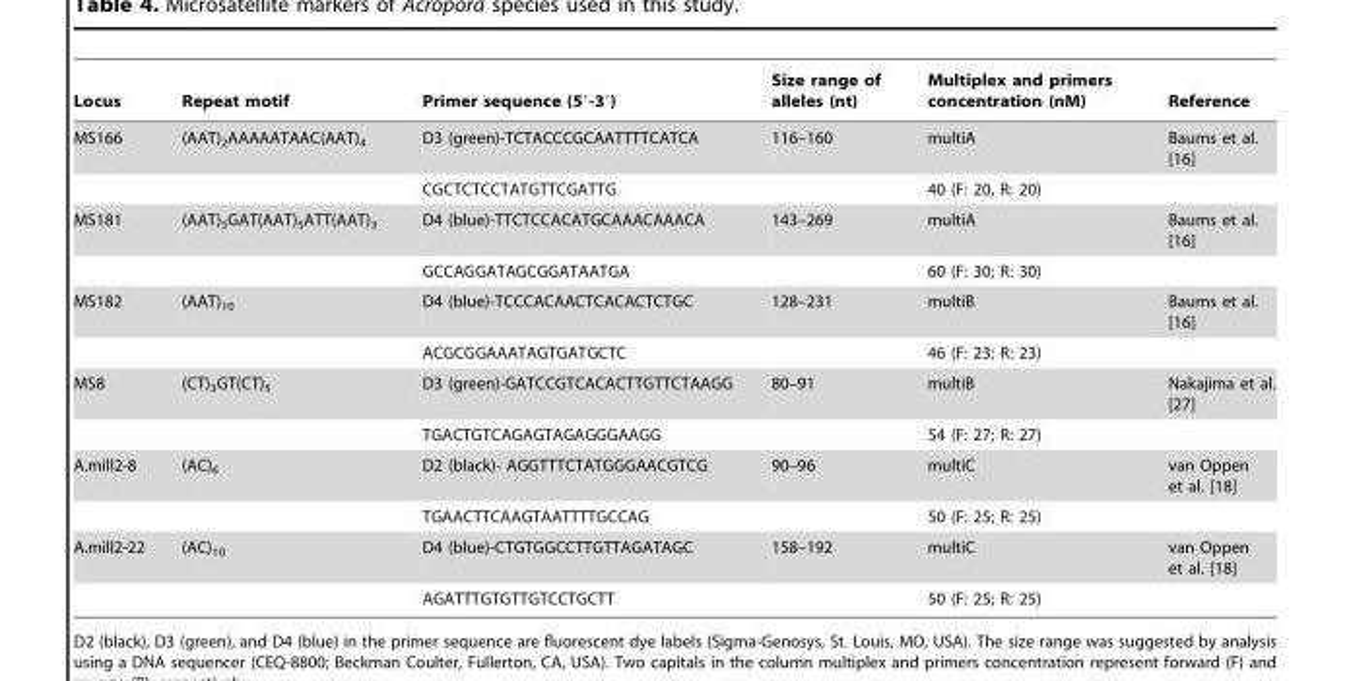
<table><thead><tr><td>Locus</td><td>Repeat motif</td><td>Primer sequence (5′-3′)</td><td>Size range of alleles (nt)</td><td>Multiplex and primers concentration (nM)</td><td>Reference</td></tr></thead><tbody><tr><td rowspan="2">MS166</td><td>(AAT)<sub>2</sub>AAAAATAAC(AAT)<sub>4</sub></td><td>D3 (green)-TCTACCCGCAATTTTCATCA</td><td>116–160</td><td>multiA</td><td>Baums et al. [16]</td></tr><tr><td></td><td>CGCTCTCCTATGTTCGATTG</td><td></td><td>40 (F: 20, R: 20)</td><td></td></tr><tr><td rowspan="2">MS181</td><td>(AAT)<sub>5</sub>GAT(AAT)<sub>5</sub>ATT(AAT)<sub>3</sub></td><td>D4 (blue)-TTCTCCACATGCAAACAAACA</td><td>143–269</td><td>multiA</td><td>Baums et al. [16]</td></tr><tr><td></td><td>GCCAGGATAGCGGATAATGA</td><td></td><td>60 (F: 30; R: 30)</td><td></td></tr><tr><td rowspan="2">MS182</td><td>(AAT)<sub>10</sub></td><td>D4 (blue)-TCCCACAACTCACACTCTGC</td><td>128–231</td><td>multiB</td><td>Baums et al. [16]</td></tr><tr><td></td><td>ACGCGGAAATAGTGATGCTC</td><td></td><td>46 (F: 23; R: 23)</td><td></td></tr><tr><td rowspan="2">MS8</td><td>(CT)<sub>3</sub>GT(CT)<sub>5</sub></td><td>D3 (green)-GATCCGTCACACTTGTTCTAAGG</td><td>80–91</td><td>multiB</td><td>Nakajima et al. [27]</td></tr><tr><td></td><td>TGACTGTCAGAGTAGAGGGAAGG</td><td></td><td>54 (F: 27; R: 27)</td><td></td></tr><tr><td rowspan="2">A.mill2-8</td><td>(AC)<sub>6</sub></td><td>D2 (black)- AGGTTTCTATGGGAACGTCG</td><td>90–96</td><td>multiC</td><td>van Oppen et al. [18]</td></tr><tr><td></td><td>TGAACTTCAAGTAATTTTGCCAG</td><td></td><td>50 (F: 25; R: 25)</td><td></td></tr><tr><td rowspan="2">A.mill2-22</td><td>(AC)<sub>10</sub></td><td>D4 (blue)-CTGTGGCCTTGTTAGATAGC</td><td>158–192</td><td>multiC</td><td>van Oppen et al. [18]</td></tr><tr><td></td><td>AGATTTGTGTTGTCCTGCTT</td><td></td><td>50 (F: 25; R: 25)</td><td></td></tr></tbody></table>